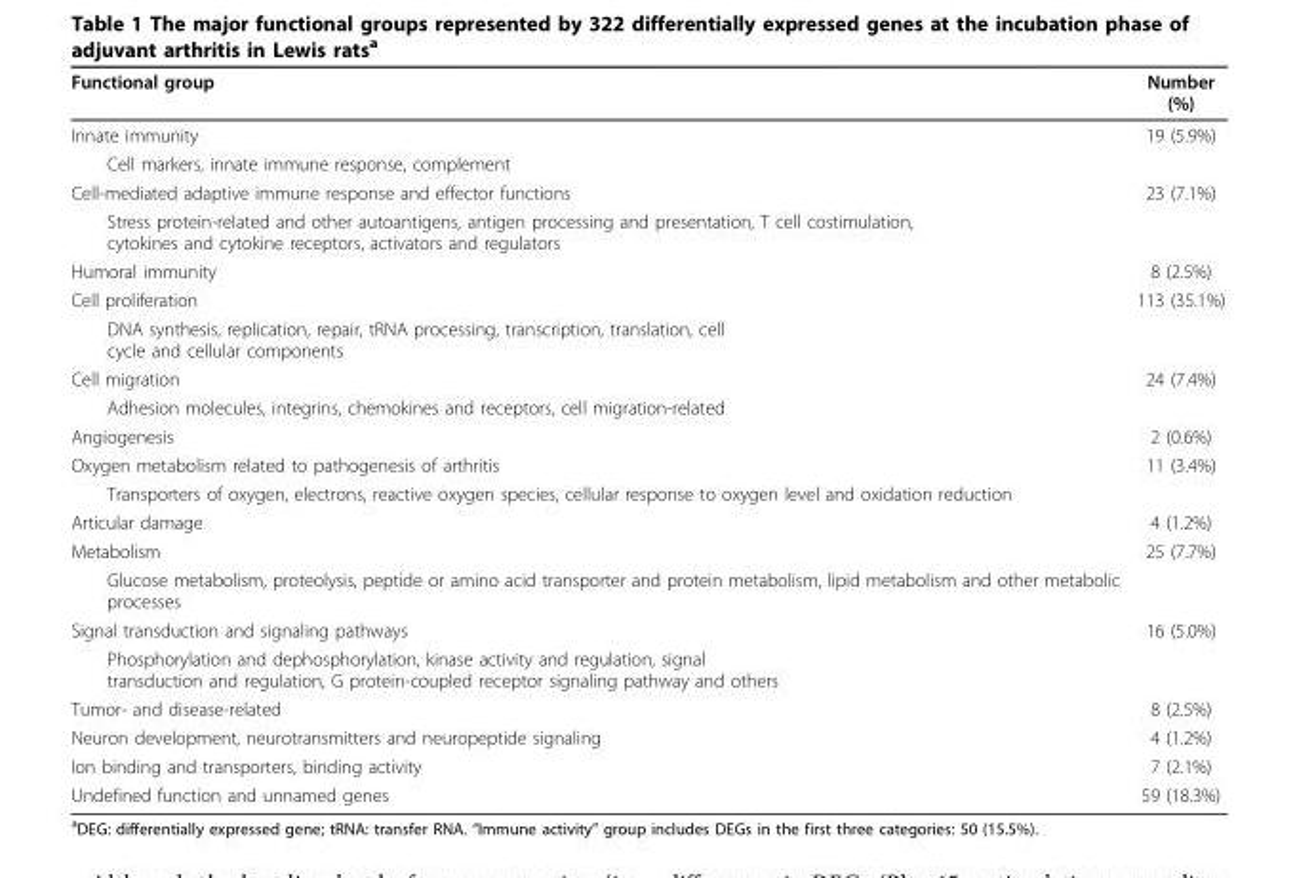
<table><thead><tr><td>Functional group</td><td>Number (%)</td></tr></thead><tbody><tr><td>Innate immunity</td><td>19 (5.9%)</td></tr><tr><td colspan="2">Cell markers, innate immune response, complement</td></tr><tr><td>Cell-mediated adaptive immune response and effector functions</td><td>23 (7.1%)</td></tr><tr><td colspan="2">Stress protein-related and other autoantigens, antigen processing and presentation, T cell costimulation, cytokines and cytokine receptors, activators and regulators</td></tr><tr><td>Humoral immunity</td><td>8 (2.5%)</td></tr><tr><td>Cell proliferation</td><td>113 (35.1%)</td></tr><tr><td colspan="2">DNA synthesis, replication, repair, tRNA processing, transcription, translation, cell cycle and cellular components</td></tr><tr><td>Cell migration</td><td>24 (7.4%)</td></tr><tr><td colspan="2">Adhesion molecules, integrins, chemokines and receptors, cell migration-related</td></tr><tr><td>Angiogenesis</td><td>2 (0.6%)</td></tr><tr><td>Oxygen metabolism related to pathogenesis of arthritis</td><td>11 (3.4%)</td></tr><tr><td colspan="2">Transporters of oxygen, electrons, reactive oxygen species, cellular response to oxygen level and oxidation reduction</td></tr><tr><td>Articular damage</td><td>4 (1.2%)</td></tr><tr><td>Metabolism</td><td>25 (7.7%)</td></tr><tr><td colspan="2">Glucose metabolism, proteolysis, peptide or amino acid transporter and protein metabolism, lipid metabolism and other metabolic processes</td></tr><tr><td>Signal transduction and signaling pathways</td><td>16 (5.0%)</td></tr><tr><td colspan="2">Phosphorylation and dephosphorylation, kinase activity and regulation, signal transduction and regulation, G protein-coupled receptor signaling pathway and others</td></tr><tr><td>Tumor- and disease-related</td><td>8 (2.5%)</td></tr><tr><td>Neuron development, neurotransmitters and neuropeptide signaling</td><td>4 (1.2%)</td></tr><tr><td>Ion binding and transporters, binding activity</td><td>7 (2.1%)</td></tr><tr><td>Undefined function and unnamed genes</td><td>59 (18.3%)</td></tr></tbody></table>